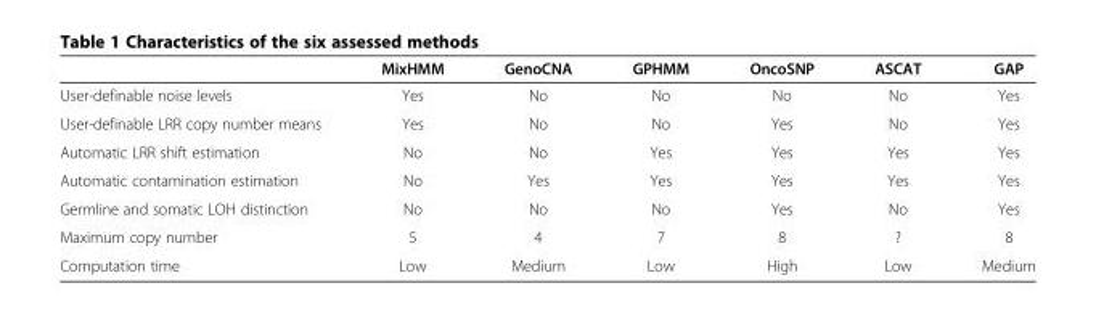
<table><thead><tr><td></td><td>MixHMM</td><td>GenoCNA</td><td>GPHMM</td><td>OncoSNP</td><td>ASCAT</td><td>GAP</td></tr></thead><tbody><tr><td>User-definable noise levels</td><td>Yes</td><td>No</td><td>No</td><td>No</td><td>No</td><td>Yes</td></tr><tr><td>User-definable LRR copy number means</td><td>Yes</td><td>No</td><td>No</td><td>Yes</td><td>No</td><td>Yes</td></tr><tr><td>Automatic LRR shift estimation</td><td>No</td><td>No</td><td>Yes</td><td>Yes</td><td>Yes</td><td>Yes</td></tr><tr><td>Automatic contamination estimation</td><td>No</td><td>Yes</td><td>Yes</td><td>Yes</td><td>Yes</td><td>Yes</td></tr><tr><td>Germline and somatic LOH distinction</td><td>No</td><td>No</td><td>No</td><td>Yes</td><td>No</td><td>Yes</td></tr><tr><td>Maximum copy number</td><td>5</td><td>4</td><td>7</td><td>8</td><td>?</td><td>8</td></tr><tr><td>Computation time</td><td>Low</td><td>Medium</td><td>Low</td><td>High</td><td>Low</td><td>Medium</td></tr></tbody></table>